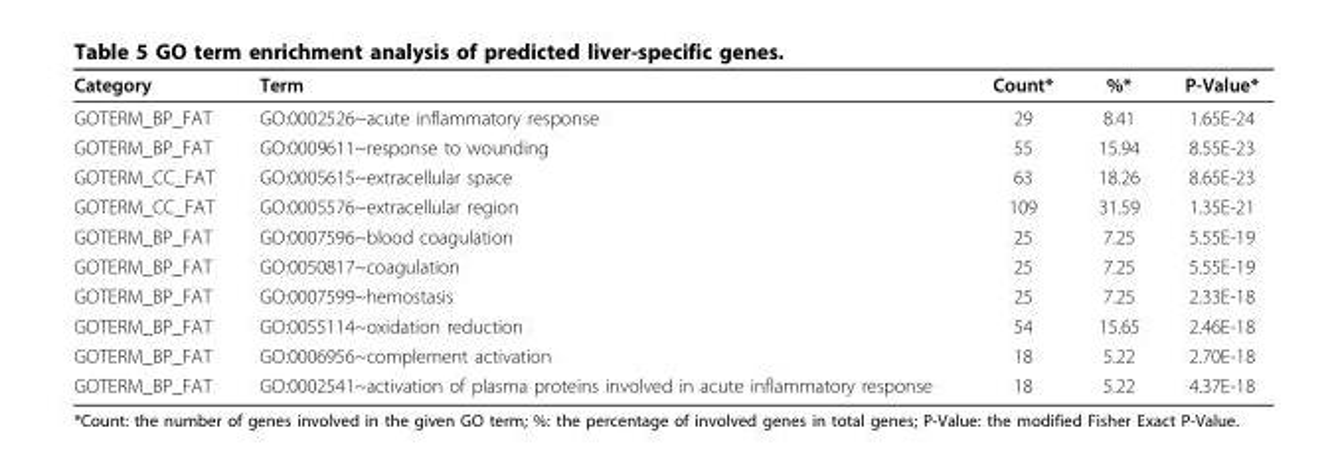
<table><thead><tr><td>Category</td><td>Term</td><td>Count*</td><td>%*</td><td>P-Value*</td></tr></thead><tbody><tr><td>GOTERM_BP_FAT</td><td>GO:0002526~acute inflammatory response</td><td>29</td><td>8.41</td><td>1.65E-24</td></tr><tr><td>GOTERM_BP_FAT</td><td>GO:0009611~response to wounding</td><td>55</td><td>15.94</td><td>8.55E-23</td></tr><tr><td>GOTERM_CC_FAT</td><td>GO:0005615~extracellular space</td><td>63</td><td>18.26</td><td>8.65E-23</td></tr><tr><td>GOTERM_CC_FAT</td><td>GO:0005576~extracellular region</td><td>109</td><td>31.59</td><td>1.35E-21</td></tr><tr><td>GOTERM_BP_FAT</td><td>GO:0007596~blood coagulation</td><td>25</td><td>7.25</td><td>5.55E-19</td></tr><tr><td>GOTERM_BP_FAT</td><td>GO:0050817~coagulation</td><td>25</td><td>7.25</td><td>5.55E-19</td></tr><tr><td>GOTERM_BP_FAT</td><td>GO:0007599~hemostasis</td><td>25</td><td>7.25</td><td>2.33E-18</td></tr><tr><td>GOTERM_BP_FAT</td><td>GO:0055114~oxidation reduction</td><td>54</td><td>15.65</td><td>2.46E-18</td></tr><tr><td>GOTERM_BP_FAT</td><td>GO:0006956~complement activation</td><td>18</td><td>5.22</td><td>2.70E-18</td></tr><tr><td>GOTERM_BP_FAT</td><td>GO:0002541~activation of plasma proteins involved in acute inflammatory response</td><td>18</td><td>5.22</td><td>4.37E-18</td></tr></tbody></table>